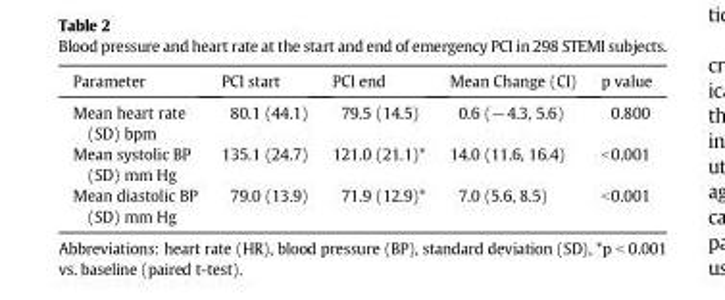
<table><thead><tr><td>Parameter</td><td>PCI start</td><td>PCI end</td><td>Mean Change (CI)</td><td>p value</td></tr></thead><tbody><tr><td>Mean heart rate (SD) bpm</td><td>80.1 (44.1)</td><td>79.5 (14.5)</td><td>0.6 (−4.3, 5.6)</td><td>0.800</td></tr><tr><td>Mean systolic BP (SD) mm Hg</td><td>135.1 (24.7)</td><td>121.0 (21.1)*</td><td>14.0 (11.6, 16.4)</td><td>&lt;0.001</td></tr><tr><td>Mean diastolic BP (SD) mm Hg</td><td>79.0 (13.9)</td><td>71.9 (12.9)*</td><td>7.0 (5.6, 8.5)</td><td>&lt;0.001</td></tr></tbody></table>